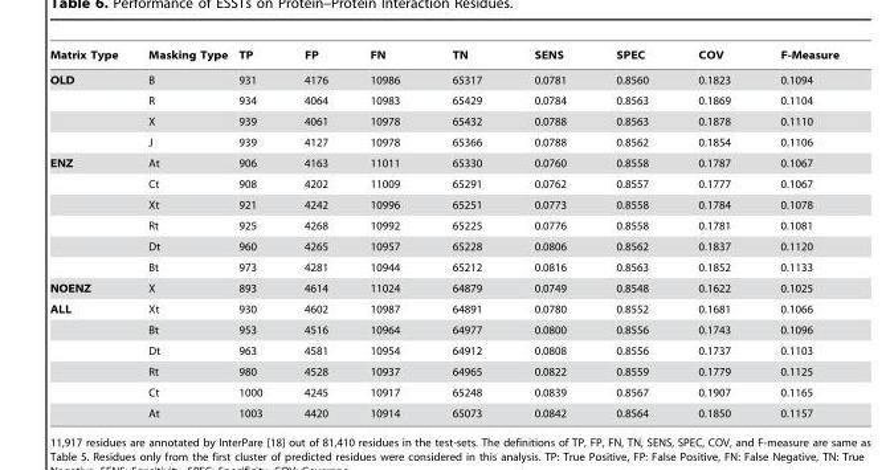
<table><thead><tr><td>Matrix Type</td><td>Masking Type</td><td>TP</td><td>FP</td><td>FN</td><td>TN</td><td>SENS</td><td>SPEC</td><td>COV</td><td>F-Measure</td></tr></thead><tbody><tr><td rowspan="4">OLD</td><td>B</td><td>931</td><td>4176</td><td>10986</td><td>65317</td><td>0.0781</td><td>0.8560</td><td>0.1823</td><td>0.1094</td></tr><tr><td>R</td><td>934</td><td>4064</td><td>10983</td><td>65429</td><td>0.0784</td><td>0.8563</td><td>0.1869</td><td>0.1104</td></tr><tr><td>X</td><td>939</td><td>4061</td><td>10978</td><td>65432</td><td>0.0788</td><td>0.8563</td><td>0.1878</td><td>0.1110</td></tr><tr><td>J</td><td>939</td><td>4127</td><td>10978</td><td>65366</td><td>0.0788</td><td>0.8562</td><td>0.1854</td><td>0.1106</td></tr><tr><td rowspan="6">ENZ</td><td>At</td><td>906</td><td>4163</td><td>11011</td><td>65330</td><td>0.0760</td><td>0.8558</td><td>0.1787</td><td>0.1067</td></tr><tr><td>Ct</td><td>908</td><td>4202</td><td>11009</td><td>65291</td><td>0.0762</td><td>0.8557</td><td>0.1777</td><td>0.1067</td></tr><tr><td>Xt</td><td>921</td><td>4242</td><td>10996</td><td>65251</td><td>0.0773</td><td>0.8558</td><td>0.1784</td><td>0.1078</td></tr><tr><td>Rt</td><td>925</td><td>4268</td><td>10992</td><td>65225</td><td>0.0776</td><td>0.8558</td><td>0.1781</td><td>0.1081</td></tr><tr><td>Dt</td><td>960</td><td>4265</td><td>10957</td><td>65228</td><td>0.0806</td><td>0.8562</td><td>0.1837</td><td>0.1120</td></tr><tr><td>Bt</td><td>973</td><td>4281</td><td>10944</td><td>65212</td><td>0.0816</td><td>0.8563</td><td>0.1852</td><td>0.1133</td></tr><tr><td>NOENZ</td><td>X</td><td>893</td><td>4614</td><td>11024</td><td>64879</td><td>0.0749</td><td>0.8548</td><td>0.1622</td><td>0.1025</td></tr><tr><td rowspan="6">ALL</td><td>Xt</td><td>930</td><td>4602</td><td>10987</td><td>64891</td><td>0.0780</td><td>0.8552</td><td>0.1681</td><td>0.1066</td></tr><tr><td>Bt</td><td>953</td><td>4516</td><td>10964</td><td>64977</td><td>0.0800</td><td>0.8556</td><td>0.1743</td><td>0.1096</td></tr><tr><td>Dt</td><td>963</td><td>4581</td><td>10954</td><td>64912</td><td>0.0808</td><td>0.8556</td><td>0.1737</td><td>0.1103</td></tr><tr><td>Rt</td><td>980</td><td>4528</td><td>10937</td><td>64965</td><td>0.0822</td><td>0.8559</td><td>0.1779</td><td>0.1125</td></tr><tr><td>Ct</td><td>1000</td><td>4245</td><td>10917</td><td>65248</td><td>0.0839</td><td>0.8567</td><td>0.1907</td><td>0.1165</td></tr><tr><td>At</td><td>1003</td><td>4420</td><td>10914</td><td>65073</td><td>0.0842</td><td>0.8564</td><td>0.1850</td><td>0.1157</td></tr></tbody></table>